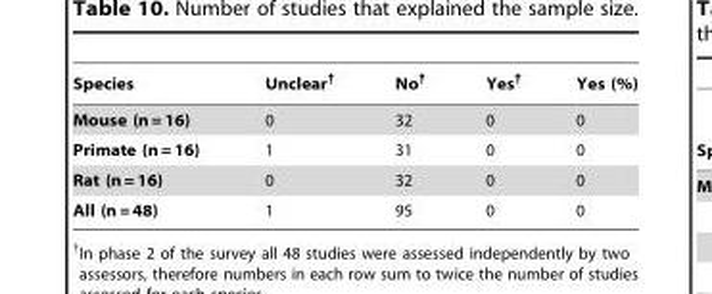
<table><thead><tr><td>Species</td><td>Unclear†</td><td>No†</td><td>Yes†</td><td>Yes (%)</td></tr></thead><tbody><tr><td>Mouse (n = 16)</td><td>0</td><td>32</td><td>0</td><td>0</td></tr><tr><td>Primate (n = 16)</td><td>1</td><td>31</td><td>0</td><td>0</td></tr><tr><td>Rat (n = 16)</td><td>0</td><td>32</td><td>0</td><td>0</td></tr><tr><td>All (n = 48)</td><td>1</td><td>95</td><td>0</td><td>0</td></tr></tbody></table>